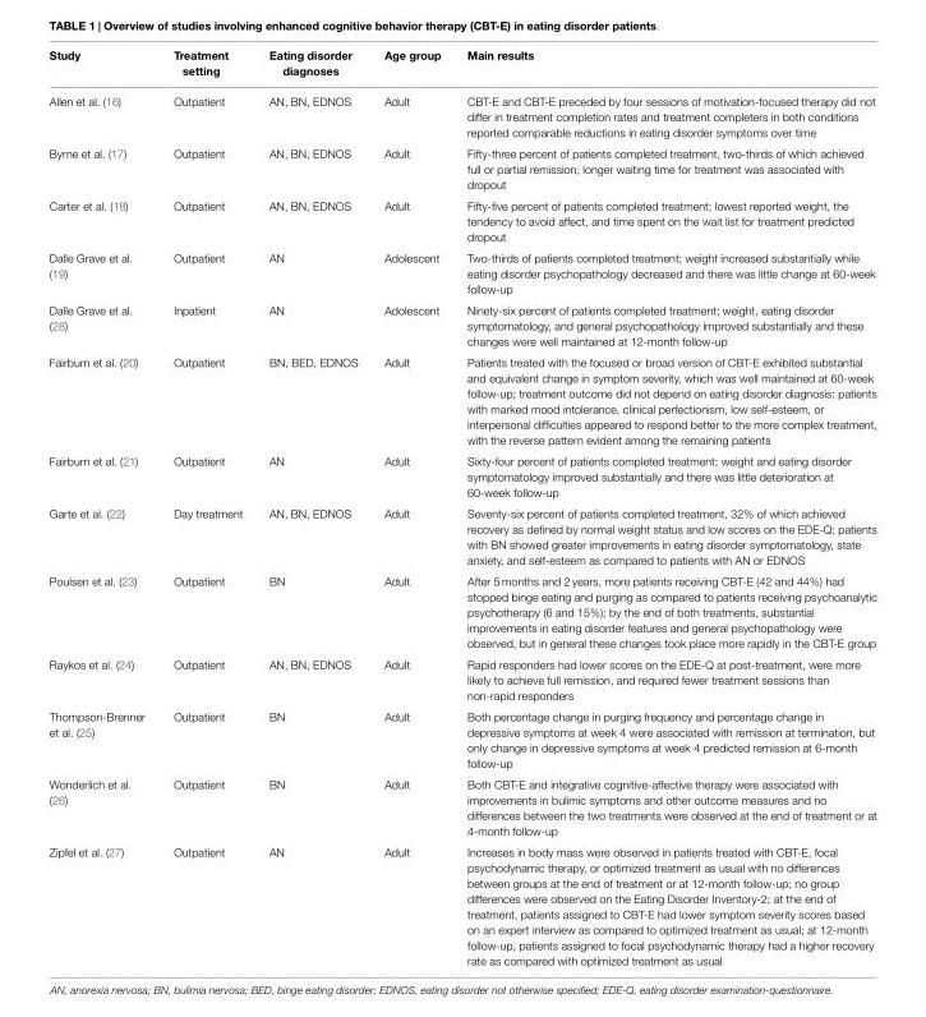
<table><thead><tr><td>Study</td><td>Treatment setting</td><td>Eating disorder diagnoses</td><td>Age group</td><td>Main results</td></tr></thead><tbody><tr><td>Allen et al. (16)</td><td>Outpatient</td><td>AN, BN, EDNOS</td><td>Adult</td><td>CBT-E and CBT-E preceded by four sessions of motivation-focused therapy did not differ in treatment completion rates and treatment completers in both conditions reported comparable reductions in eating disorder symptoms over time</td></tr><tr><td>Byrne et al. (17)</td><td>Outpatient</td><td>AN, BN, EDNOS</td><td>Adult</td><td>Fifty-three percent of patients completed treatment, two-thirds of which achieved full or partial remission; longer waiting time for treatment was associated with dropout</td></tr><tr><td>Carter et al. (18)</td><td>Outpatient</td><td>AN, BN, EDNOS</td><td>Adult</td><td>Fifty-five percent of patients completed treatment; lowest reported weight, the tendency to avoid affect, and time spent on the wait list for treatment predicted dropout</td></tr><tr><td>Dalle Grave et al. (19)</td><td>Outpatient</td><td>AN</td><td>Adolescent</td><td>Two-thirds of patients completed treatment; weight increased substantially while eating disorder psychopathology decreased and there was little change at 60-week follow-up</td></tr><tr><td>Dalle Grave et al. (28)</td><td>Inpatient</td><td>AN</td><td>Adolescent</td><td>Ninety-six percent of patients completed treatment; weight, eating disorder symptomatology, and general psychopathology improved substantially and these changes were well maintained at 12-month follow-up</td></tr><tr><td>Fairburn et al. (20)</td><td>Outpatient</td><td>BN, BED, EDNOS</td><td>Adult</td><td>Patients treated with the focused or broad version of CBT-E exhibited substantial and equivalent change in symptom severity, which was well maintained at 60-week follow-up; treatment outcome did not depend on eating disorder diagnosis; patients with marked mood intolerance, clinical perfectionism, low self-esteem, or interpersonal difficulties appeared to respond better to the more complex treatment, with the reverse pattern evident among the remaining patients</td></tr><tr><td>Fairburn et al. (21)</td><td>Outpatient</td><td>AN</td><td>Adult</td><td>Sixty-four percent of patients completed treatment; weight and eating disorder symptomatology improved substantially and there was little deterioration at 60-week follow-up</td></tr><tr><td>Garte et al. (22)</td><td>Day treatment</td><td>AN, BN, EDNOS</td><td>Adult</td><td>Seventy-six percent of patients completed treatment, 32% of which achieved recovery as defined by normal weight status and low scores on the EDE-Q; patients with BN showed greater improvements in eating disorder symptomatology, state anxiety, and self-esteem as compared to patients with AN or EDNOS</td></tr><tr><td>Poulsen et al. (23)</td><td>Outpatient</td><td>BN</td><td>Adult</td><td>After 5 months and 2 years, more patients receiving CBT-E (42 and 44%) had stopped binge eating and purging as compared to patients receiving psychoanalytic psychotherapy (6 and 15%); by the end of both treatments, substantial improvements in eating disorder features and general psychopathology were observed, but in general these changes took place more rapidly in the CBT-E group</td></tr><tr><td>Raykos et al. (24)</td><td>Outpatient</td><td>AN, BN, EDNOS</td><td>Adult</td><td>Rapid responders had lower scores on the EDE-Q at post-treatment, were more likely to achieve full remission, and required fewer treatment sessions than non-rapid responders</td></tr><tr><td>Thompson-Brenner et al. (25)</td><td>Outpatient</td><td>BN</td><td>Adult</td><td>Both percentage change in purging frequency and percentage change in depressive symptoms at week 4 were associated with remission at termination, but only change in depressive symptoms at week 4 predicted remission at 6-month follow-up</td></tr><tr><td>Wonderlich et al. (26)</td><td>Outpatient</td><td>BN</td><td>Adult</td><td>Both CBT-E and integrative cognitive-affective therapy were associated with improvements in bulimic symptoms and other outcome measures and no differences between the two treatments were observed at the end of treatment or at 4-month follow-up</td></tr><tr><td>Zipfel et al. (27)</td><td>Outpatient</td><td>AN</td><td>Adult</td><td>Increases in body mass were observed in patients treated with CBT-E, focal psychodynamic therapy, or optimized treatment as usual with no differences between groups at the end of treatment or at 12-month follow-up; no group differences were observed on the Eating Disorder Inventory-2; at the end of treatment, patients assigned to CBT-E had lower symptom severity scores based on an expert interview as compared to optimized treatment as usual; at 12-month follow-up, patients assigned to focal psychodynamic therapy had a higher recovery rate as compared with optimized treatment as usual</td></tr></tbody></table>